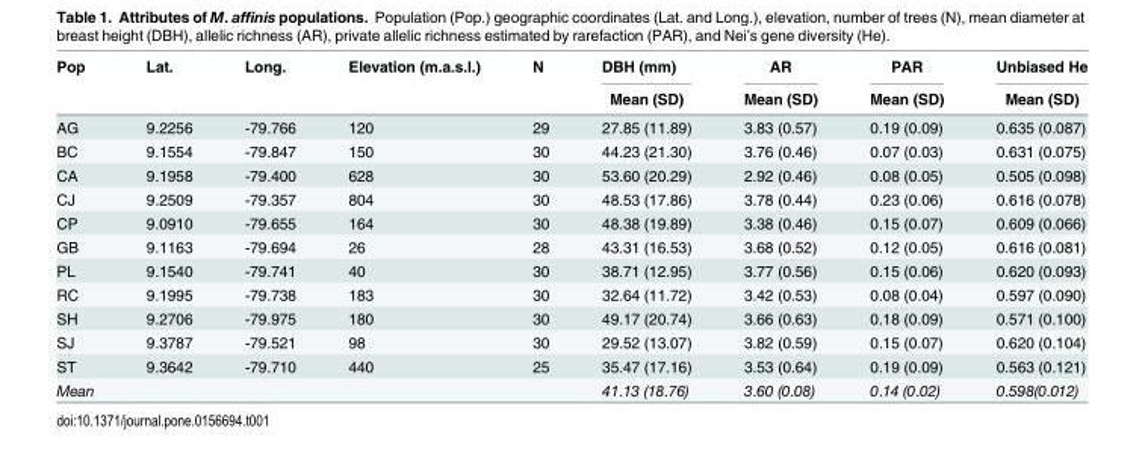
<table><thead><tr><td rowspan="2">Pop</td><td rowspan="2">Lat.</td><td rowspan="2">Long.</td><td rowspan="2">Elevation (m.a.s.l.)</td><td rowspan="2">N</td><td rowspan="2">DBH (mm) Mean (SD)</td><td rowspan="2">AR Mean (SD)</td><td rowspan="2">PAR Mean (SD)</td><td rowspan="2">Unbiased He Mean (SD)</td></tr><tr></tr></thead><tbody><tr><td>AG</td><td>9.2256</td><td>-79.766</td><td>120</td><td>29</td><td>27.85 (11.89)</td><td>3.83 (0.57)</td><td>0.19 (0.09)</td><td>0.635 (0.087)</td></tr><tr><td>BC</td><td>9.1554</td><td>-79.847</td><td>150</td><td>30</td><td>44.23 (21.30)</td><td>3.76 (0.46)</td><td>0.07 (0.03)</td><td>0.631 (0.075)</td></tr><tr><td>CA</td><td>9.1958</td><td>-79.400</td><td>628</td><td>30</td><td>53.60 (20.29)</td><td>2.92 (0.46)</td><td>0.08 (0.05)</td><td>0.505 (0.098)</td></tr><tr><td>CJ</td><td>9.2509</td><td>-79.357</td><td>804</td><td>30</td><td>48.53 (17.86)</td><td>3.78 (0.44)</td><td>0.23 (0.06)</td><td>0.616 (0.078)</td></tr><tr><td>CP</td><td>9.0910</td><td>-79.655</td><td>164</td><td>30</td><td>48.38 (19.89)</td><td>3.38 (0.46)</td><td>0.15 (0.07)</td><td>0.609 (0.066)</td></tr><tr><td>GB</td><td>9.1163</td><td>-79.694</td><td>26</td><td>28</td><td>43.31 (16.53)</td><td>3.68 (0.52)</td><td>0.12 (0.05)</td><td>0.616 (0.081)</td></tr><tr><td>PL</td><td>9.1540</td><td>-79.741</td><td>40</td><td>30</td><td>38.71 (12.95)</td><td>3.77 (0.56)</td><td>0.15 (0.06)</td><td>0.620 (0.093)</td></tr><tr><td>RC</td><td>9.1995</td><td>-79.738</td><td>183</td><td>30</td><td>32.64 (11.72)</td><td>3.42 (0.53)</td><td>0.08 (0.04)</td><td>0.597 (0.090)</td></tr><tr><td>SH</td><td>9.2706</td><td>-79.975</td><td>180</td><td>30</td><td>49.17 (20.74)</td><td>3.66 (0.63)</td><td>0.18 (0.09)</td><td>0.571 (0.100)</td></tr><tr><td>SJ</td><td>9.3787</td><td>-79.521</td><td>98</td><td>30</td><td>29.52 (13.07)</td><td>3.82 (0.59)</td><td>0.15 (0.07)</td><td>0.620 (0.104)</td></tr><tr><td>ST</td><td>9.3642</td><td>-79.710</td><td>440</td><td>25</td><td>35.47 (17.16)</td><td>3.53 (0.64)</td><td>0.19 (0.09)</td><td>0.563 (0.121)</td></tr><tr><td>Mean</td><td></td><td></td><td></td><td></td><td>41.13 (18.76)</td><td>3.60 (0.08)</td><td>0.14 (0.02)</td><td>0.598(0.012)</td></tr></tbody></table>